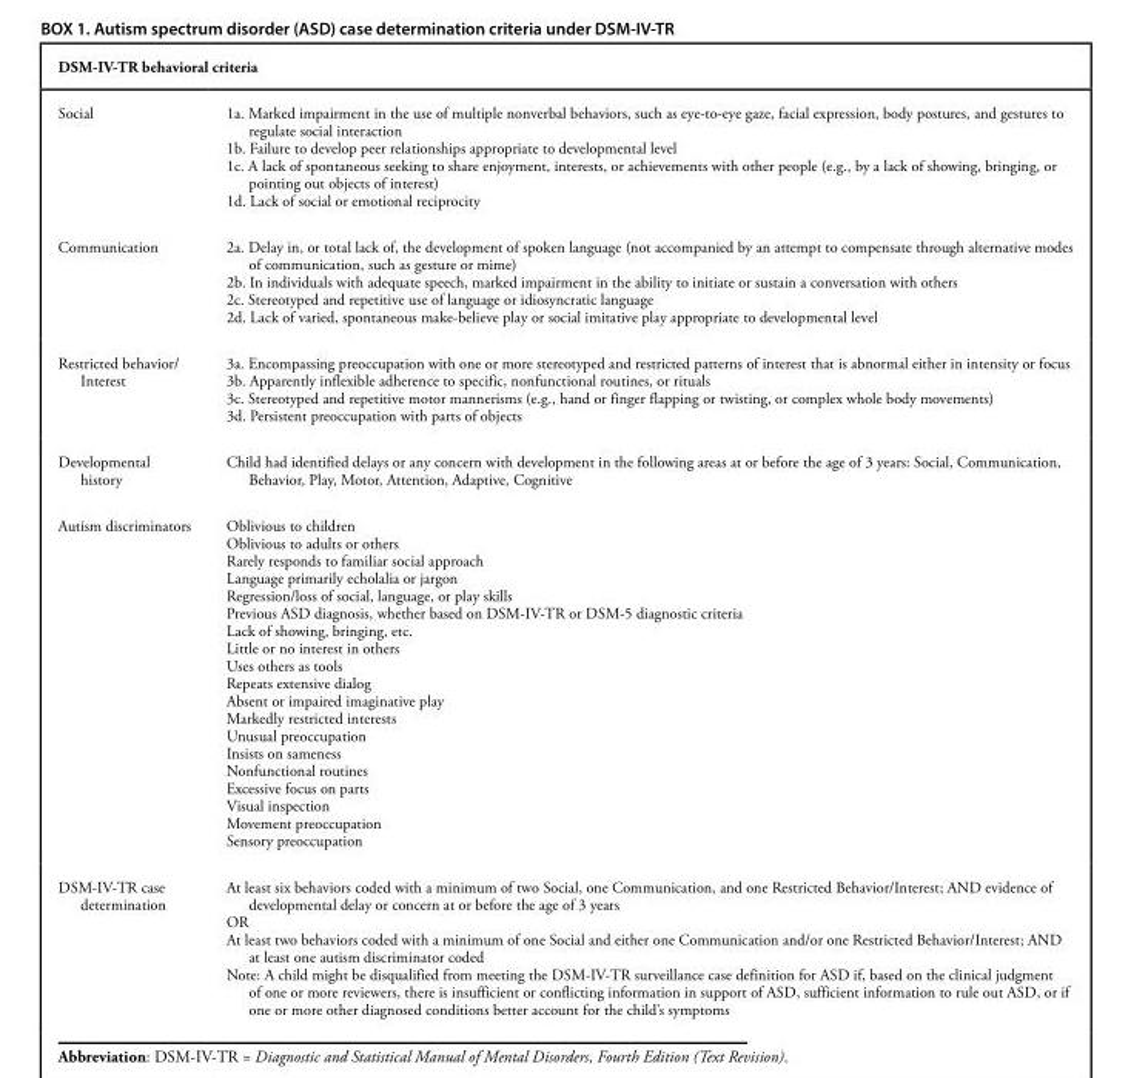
<table><thead><tr><td colspan="2">DSM-IV-TR behavioral criteria</td></tr><tr><td>Social</td><td>1a. Marked impairment in the use of multiple nonverbal behaviors, such as eye-to-eye gaze, facial expression, body postures, and gestures to regulate social interaction 1b. Failure to develop peer relationships appropriate to developmental level 1c. A lack of spontaneous seeking to share enjoyment, interests, or achievements with other people (e.g., by a lack of showing, bringing, or pointing out objects of interest) 1d. Lack of social or emotional reciprocity</td></tr></thead><tbody><tr><td>Communication</td><td>2a. Delay in, or total lack of, the development of spoken language (not accompanied by an attempt to compensate through alternative modes of communication, such as gesture or mime) 2b. In individuals with adequate speech, marked impairment in the ability to initiate or sustain a conversation with others 2c. Stereotyped and repetitive use of language or idiosyncratic language 2d. Lack of varied, spontaneous make-believe play or social imitative play appropriate to developmental level</td></tr><tr><td>Restricted behavior/ Interest</td><td>3a. Encompassing preoccupation with one or more stereotyped and restricted patterns of interest that is abnormal either in intensity or focus 3b. Apparently inflexible adherence to specific, nonfunctional routines, or rituals 3c. Stereotyped and repetitive motor mannerisms (e.g., hand or finger flapping or twisting, or complex whole body movements) 3d. Persistent preoccupation with parts of objects</td></tr><tr><td>Developmental history</td><td>Child had identified delays or any concern with development in the following areas at or before the age of 3 years: Social, Communication, Behavior, Play, Motor, Attention, Adaptive, Cognitive</td></tr><tr><td>Autism discriminators</td><td>Oblivious to children Oblivious to adults or others Rarely responds to familiar social approach Language primarily echolalia or jargon Regression/loss of social, language, or play skills Previous ASD diagnosis, whether based on DSM-IV-TR or DSM-5 diagnostic criteria Lack of showing, bringing, etc. Little or no interest in others Uses others as tools Repeats extensive dialog Absent or impaired imaginative play Markedly restricted interests Unusual preoccupation Insists on sameness Nonfunctional routines Excessive focus on parts Visual inspection Movement preoccupation Sensory preoccupation</td></tr><tr><td>DSM-IV-TR case determination</td><td>At least six behaviors coded with a minimum of two Social, one Communication, and one Restricted Behavior/Interest; AND evidence of developmental delay or concern at or before the age of 3 years OR At least two behaviors coded with a minimum of one Social and either one Communication and/or one Restricted Behavior/Interest; AND at least one autism discriminator coded Note: A child might be disqualified from meeting the DSM-IV-TR surveillance case definition for ASD if, based on the clinical judgment of one or more reviewers, there is insufficient or conflicting information in support of ASD, sufficient information to rule out ASD, or if one or more other diagnosed conditions better account for the child’s symptoms</td></tr></tbody></table>